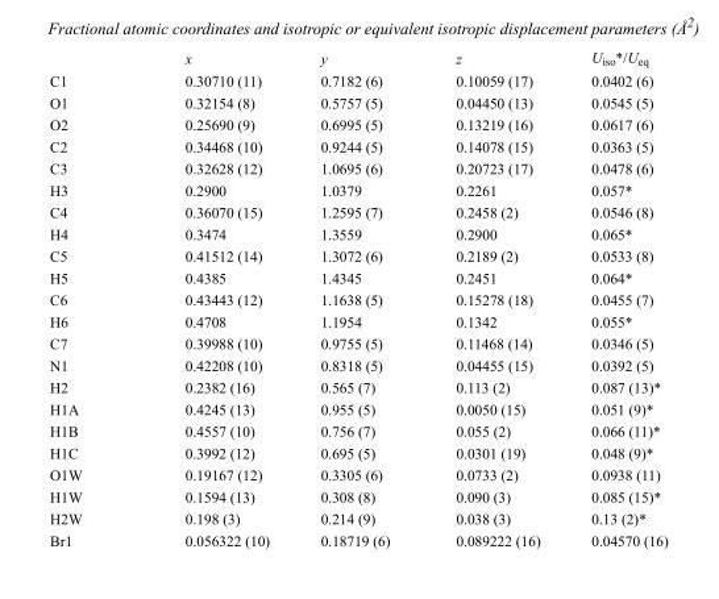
<table><thead><tr><td></td><td>x</td><td>y</td><td>z</td><td>U<sub>iso</sub>*/U<sub>eq</sub></td></tr></thead><tbody><tr><td>C1</td><td>0.30710 (11)</td><td>0.7182 (6)</td><td>0.10059 (17)</td><td>0.0402 (6)</td></tr><tr><td>O1</td><td>0.32154 (8)</td><td>0.5757 (5)</td><td>0.04450 (13)</td><td>0.0545 (5)</td></tr><tr><td>O2</td><td>0.25690 (9)</td><td>0.6995 (5)</td><td>0.13219 (16)</td><td>0.0617 (6)</td></tr><tr><td>C2</td><td>0.34468 (10)</td><td>0.9244 (5)</td><td>0.14078 (15)</td><td>0.0363 (5)</td></tr><tr><td>C3</td><td>0.32628 (12)</td><td>1.0695 (6)</td><td>0.20723 (17)</td><td>0.0478 (6)</td></tr><tr><td>H3</td><td>0.2900</td><td>1.0379</td><td>0.2261</td><td>0.057*</td></tr><tr><td>C4</td><td>0.36070 (15)</td><td>1.2595 (7)</td><td>0.2458 (2)</td><td>0.0546 (8)</td></tr><tr><td>H4</td><td>0.3474</td><td>1.3559</td><td>0.2900</td><td>0.065*</td></tr><tr><td>C5</td><td>0.41512 (14)</td><td>1.3072 (6)</td><td>0.2189 (2)</td><td>0.0533 (8)</td></tr><tr><td>H5</td><td>0.4385</td><td>1.4345</td><td>0.2451</td><td>0.064*</td></tr><tr><td>C6</td><td>0.43443 (12)</td><td>1.1638 (5)</td><td>0.15278 (18)</td><td>0.0455 (7)</td></tr><tr><td>H6</td><td>0.4708</td><td>1.1954</td><td>0.1342</td><td>0.055*</td></tr><tr><td>C7</td><td>0.39988 (10)</td><td>0.9755 (5)</td><td>0.11468 (14)</td><td>0.0346 (5)</td></tr><tr><td>N1</td><td>0.42208 (10)</td><td>0.8318 (5)</td><td>0.04455 (15)</td><td>0.0392 (5)</td></tr><tr><td>H2</td><td>0.2382 (16)</td><td>0.565 (7)</td><td>0.113 (2)</td><td>0.087 (13)*</td></tr><tr><td>H1A</td><td>0.4245 (13)</td><td>0.955 (5)</td><td>0.0050 (15)</td><td>0.051 (9)*</td></tr><tr><td>H1B</td><td>0.4557 (10)</td><td>0.756 (7)</td><td>0.055 (2)</td><td>0.066 (11)*</td></tr><tr><td>H1C</td><td>0.3992 (12)</td><td>0.695 (5)</td><td>0.0301 (19)</td><td>0.048 (9)*</td></tr><tr><td>O1W</td><td>0.19167 (12)</td><td>0.3305 (6)</td><td>0.0733 (2)</td><td>0.0938 (11)</td></tr><tr><td>H1W</td><td>0.1594 (13)</td><td>0.308 (8)</td><td>0.090 (3)</td><td>0.085 (15)*</td></tr><tr><td>H2W</td><td>0.198 (3)</td><td>0.214 (9)</td><td>0.038 (3)</td><td>0.13 (2)*</td></tr><tr><td>Br1</td><td>0.056322 (10)</td><td>0.18719 (6)</td><td>0.089222 (16)</td><td>0.04570 (16)</td></tr></tbody></table>